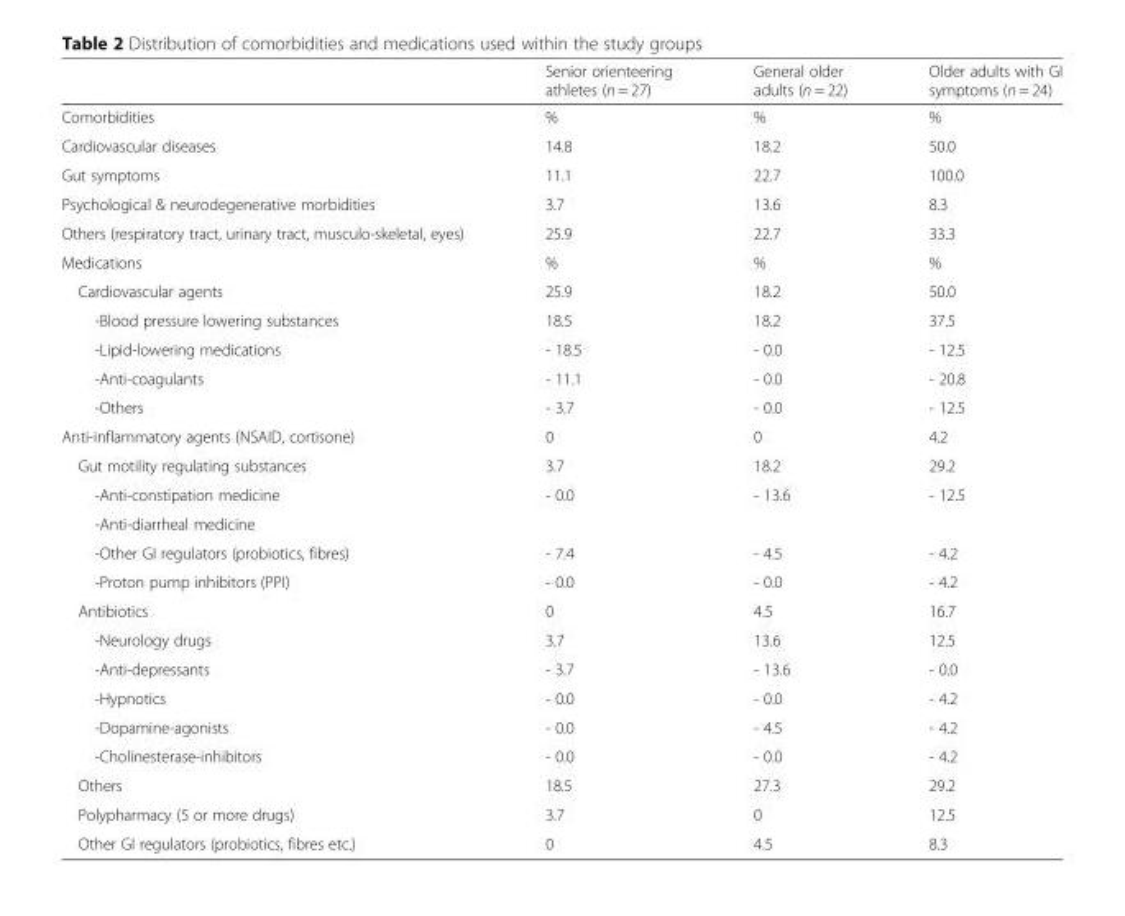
<table><thead><tr><td></td><td>Senior orienteering athletes (n = 27)</td><td>General older adults (n = 22)</td><td>Older adults with GI symptoms (n = 24)</td></tr></thead><tbody><tr><td>Comorbidities</td><td>%</td><td>%</td><td>%</td></tr><tr><td>Cardiovascular diseases</td><td>14.8</td><td>18.2</td><td>50.0</td></tr><tr><td>Gut symptoms</td><td>11.1</td><td>22.7</td><td>100.0</td></tr><tr><td>Psychological &amp; neurodegenerative morbidities</td><td>3.7</td><td>13.6</td><td>8.3</td></tr><tr><td>Others (respiratory tract, urinary tract, musculo-skeletal, eyes)</td><td>25.9</td><td>22.7</td><td>33.3</td></tr><tr><td>Medications</td><td>%</td><td>%</td><td>%</td></tr><tr><td>Cardiovascular agents</td><td>25.9</td><td>18.2</td><td>50.0</td></tr><tr><td>-Blood pressure lowering substances</td><td>18.5</td><td>18.2</td><td>37.5</td></tr><tr><td>-Lipid-lowering medications</td><td>- 18.5</td><td>- 0.0</td><td>- 12.5</td></tr><tr><td>-Anti-coagulants</td><td>- 11.1</td><td>- 0.0</td><td>- 20.8</td></tr><tr><td>-Others</td><td>- 3.7</td><td>- 0.0</td><td>- 12.5</td></tr><tr><td>Anti-inflammatory agents (NSAID, cortisone)</td><td>0</td><td>0</td><td>4.2</td></tr><tr><td>Gut motility regulating substances</td><td>3.7</td><td>18.2</td><td>29.2</td></tr><tr><td>-Anti-constipation medicine</td><td>- 0.0</td><td>- 13.6</td><td>- 12.5</td></tr><tr><td colspan="4">-Anti-diarrheal medicine</td></tr><tr><td>-Other GI regulators (probiotics, fibres)</td><td>- 7.4</td><td>- 4.5</td><td>- 4.2</td></tr><tr><td>-Proton pump inhibitors (PPI)</td><td>- 0.0</td><td>- 0.0</td><td>- 4.2</td></tr><tr><td>Antibiotics</td><td>0</td><td>4.5</td><td>16.7</td></tr><tr><td>-Neurology drugs</td><td>3.7</td><td>13.6</td><td>12.5</td></tr><tr><td>-Anti-depressants</td><td>- 3.7</td><td>- 13.6</td><td>- 0.0</td></tr><tr><td>-Hypnotics</td><td>- 0.0</td><td>- 0.0</td><td>- 4.2</td></tr><tr><td>-Dopamine-agonists</td><td>- 0.0</td><td>- 4.5</td><td>- 4.2</td></tr><tr><td>-Cholinesterase-inhibitors</td><td>- 0.0</td><td>- 0.0</td><td>- 4.2</td></tr><tr><td>Others</td><td>18.5</td><td>27.3</td><td>29.2</td></tr><tr><td>Polypharmacy (5 or more drugs)</td><td>3.7</td><td>0</td><td>12.5</td></tr><tr><td>Other GI regulators (probiotics, fibres etc.)</td><td>0</td><td>4.5</td><td>8.3</td></tr></tbody></table>